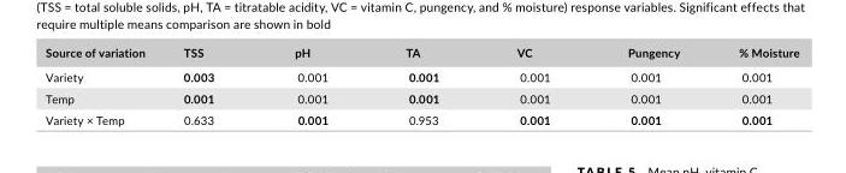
<table><thead><tr><td>Source of variation</td><td>TSS</td><td>pH</td><td>TA</td><td>VC</td><td>Pungency</td><td>% Moisture</td></tr></thead><tbody><tr><td>Variety</td><td>0.003</td><td>0.001</td><td>0.001</td><td>0.001</td><td>0.001</td><td>0.001</td></tr><tr><td>Temp</td><td>0.001</td><td>0.001</td><td>0.001</td><td>0.001</td><td>0.001</td><td>0.001</td></tr><tr><td>Variety × Temp</td><td>0.633</td><td>0.001</td><td>0.953</td><td>0.001</td><td>0.001</td><td>0.001</td></tr></tbody></table>